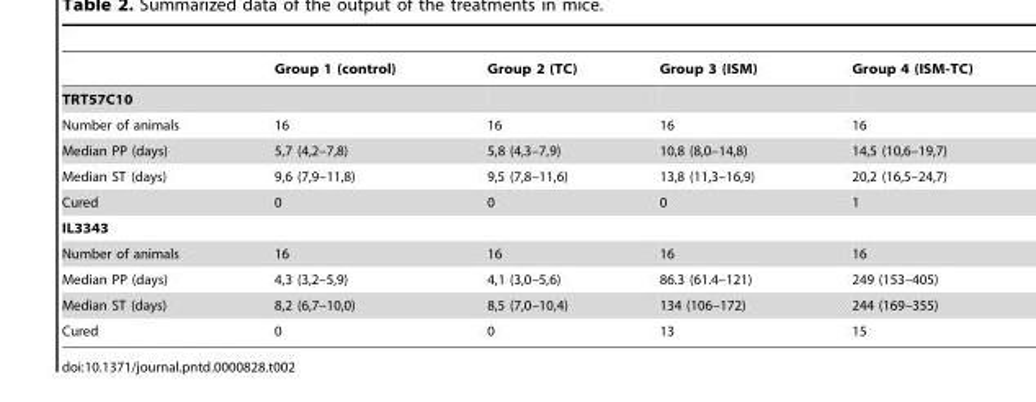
<table><thead><tr><td></td><td>Group 1 (control)</td><td>Group 2 (TC)</td><td>Group 3 (ISM)</td><td>Group 4 (ISM-TC)</td></tr></thead><tbody><tr><td colspan="5">TRT57C10</td></tr><tr><td>Number of animals</td><td>16</td><td>16</td><td>16</td><td>16</td></tr><tr><td>Median PP (days)</td><td>5,7 (4,2–7,8)</td><td>5,8 (4,3–7,9)</td><td>10,8 (8,0–14,8)</td><td>14,5 (10,6–19,7)</td></tr><tr><td>Median ST (days)</td><td>9,6 (7,9–11,8)</td><td>9,5 (7,8–11,6)</td><td>13,8 (11,3–16,9)</td><td>20,2 (16,5–24,7)</td></tr><tr><td>Cured</td><td>0</td><td>0</td><td>0</td><td>1</td></tr><tr><td colspan="5">IL3343</td></tr><tr><td>Number of animals</td><td>16</td><td>16</td><td>16</td><td>16</td></tr><tr><td>Median PP (days)</td><td>4,3 (3,2–5,9)</td><td>4,1 (3,0–5,6)</td><td>86.3 (61.4–121)</td><td>249 (153–405)</td></tr><tr><td>Median ST (days)</td><td>8,2 (6,7–10,0)</td><td>8,5 (7,0–10,4)</td><td>134 (106–172)</td><td>244 (169–355)</td></tr><tr><td>Cured</td><td>0</td><td>0</td><td>13</td><td>15</td></tr></tbody></table>